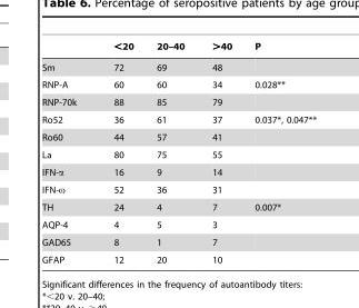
<table><thead><tr><td></td><td>&lt;20</td><td>20–40</td><td>&gt;40</td><td>P</td></tr></thead><tbody><tr><td>Sm</td><td>72</td><td>69</td><td>48</td><td></td></tr><tr><td>RNP-A</td><td>60</td><td>60</td><td>34</td><td>0.028**</td></tr><tr><td>RNP-70k</td><td>88</td><td>85</td><td>79</td><td></td></tr><tr><td>Ro52</td><td>36</td><td>61</td><td>37</td><td>0.037*, 0.047**</td></tr><tr><td>Ro60</td><td>44</td><td>57</td><td>41</td><td></td></tr><tr><td>La</td><td>80</td><td>75</td><td>55</td><td></td></tr><tr><td>IFN-α</td><td>16</td><td>9</td><td>14</td><td></td></tr><tr><td>IFN-ω</td><td>52</td><td>36</td><td>31</td><td></td></tr><tr><td>TH</td><td>24</td><td>4</td><td>7</td><td>0.007*</td></tr><tr><td>AQP-4</td><td>4</td><td>5</td><td>3</td><td></td></tr><tr><td>GAD65</td><td>8</td><td>1</td><td>7</td><td></td></tr><tr><td>GFAP</td><td>12</td><td>20</td><td>10</td><td></td></tr></tbody></table>